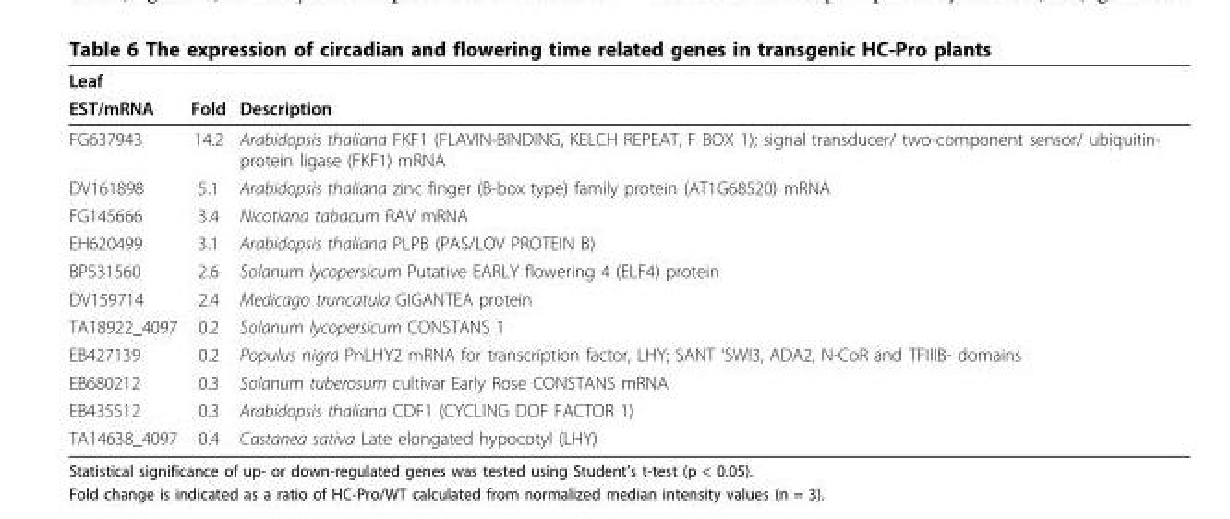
<table><thead><tr><td rowspan="2">Leaf EST/mRNA</td><td rowspan="2">Fold</td><td rowspan="2">Description</td></tr><tr></tr></thead><tbody><tr><td>FG637943</td><td>14.2</td><td>Arabidopsis thaliana FKF1 (FLAVIN-BINDING, KELCH REPEAT, F BOX 1); signal transducer/ two-component sensor/ ubiquitin- protein ligase (FKF1) mRNA</td></tr><tr><td>DV161898</td><td>5.1</td><td>Arabidopsis thaliana zinc finger (B-box type) family protein (AT1G68520) mRNA</td></tr><tr><td>FG145666</td><td>3.4</td><td>Nicotiana tabacum RAV mRNA</td></tr><tr><td>EH620499</td><td>3.1</td><td>Arabidopsis thaliana PLPB (PAS/LOV PROTEIN B)</td></tr><tr><td>BP531560</td><td>2.6</td><td>Solanum lycopersicum Putative EARLY flowering 4 (ELF4) protein</td></tr><tr><td>DV159714</td><td>2.4</td><td>Medicago truncatula GIGANTEA protein</td></tr><tr><td>TA18922_4097</td><td>0.2</td><td>Solanum lycopersicum CONSTANS 1</td></tr><tr><td>EB427139</td><td>0.2</td><td>Populus nigra PnLHY2 mRNA for transcription factor, LHY; SANT ‘SWI3, ADA2, N-CoR and TFIIIB- domains</td></tr><tr><td>EB680212</td><td>0.3</td><td>Solanum tuberosum cultivar Early Rose CONSTANS mRNA</td></tr><tr><td>EB435512</td><td>0.3</td><td>Arabidopsis thaliana CDF1 (CYCLING DOF FACTOR 1)</td></tr><tr><td>TA14638_4097</td><td>0.4</td><td>Castanea sativa Late elongated hypocotyl (LHY)</td></tr></tbody></table>